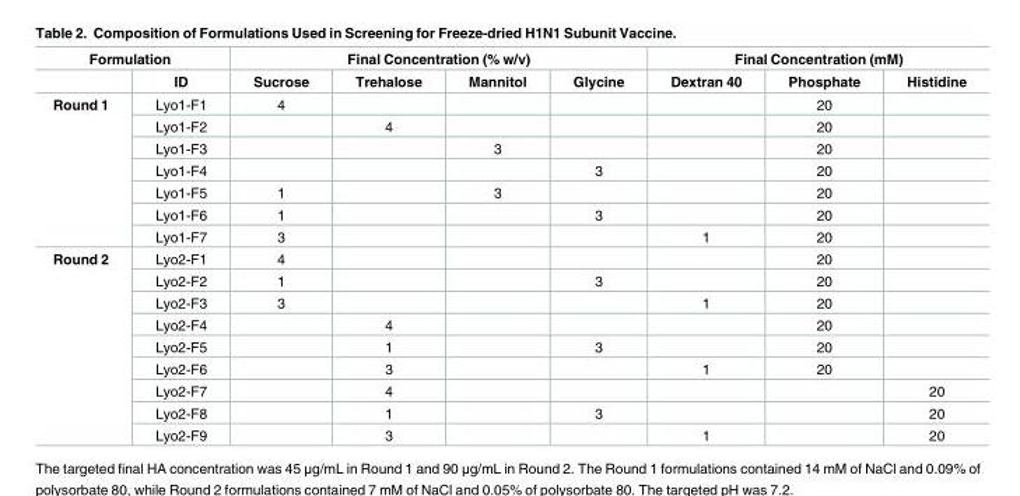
<table><thead><tr><td colspan="2">Formulation</td><td colspan="4">Final Concentration (% w/v)</td><td colspan="3">Final Concentration (mM)</td></tr><tr><td></td><td>ID</td><td>Sucrose</td><td>Trehalose</td><td>Mannitol</td><td>Glycine</td><td>Dextran 40</td><td>Phosphate</td><td>Histidine</td></tr></thead><tbody><tr><td rowspan="7">Round 1</td><td>Lyo1-F1</td><td>4</td><td></td><td></td><td></td><td></td><td>20</td><td></td></tr><tr><td>Lyo1-F2</td><td></td><td>4</td><td></td><td></td><td></td><td>20</td><td></td></tr><tr><td>Lyo1-F3</td><td></td><td></td><td>3</td><td></td><td></td><td>20</td><td></td></tr><tr><td>Lyo1-F4</td><td></td><td></td><td></td><td>3</td><td></td><td>20</td><td></td></tr><tr><td>Lyo1-F5</td><td>1</td><td></td><td>3</td><td></td><td></td><td>20</td><td></td></tr><tr><td>Lyo1-F6</td><td>1</td><td></td><td></td><td>3</td><td></td><td>20</td><td></td></tr><tr><td>Lyo1-F7</td><td>3</td><td></td><td></td><td></td><td>1</td><td>20</td><td></td></tr><tr><td rowspan="9">Round 2</td><td>Lyo2-F1</td><td>4</td><td></td><td></td><td></td><td></td><td>20</td><td></td></tr><tr><td>Lyo2-F2</td><td>1</td><td></td><td></td><td>3</td><td></td><td>20</td><td></td></tr><tr><td>Lyo2-F3</td><td>3</td><td></td><td></td><td></td><td>1</td><td>20</td><td></td></tr><tr><td>Lyo2-F4</td><td></td><td>4</td><td></td><td></td><td></td><td>20</td><td></td></tr><tr><td>Lyo2-F5</td><td></td><td>1</td><td></td><td>3</td><td></td><td>20</td><td></td></tr><tr><td>Lyo2-F6</td><td></td><td>3</td><td></td><td></td><td>1</td><td>20</td><td></td></tr><tr><td>Lyo2-F7</td><td></td><td>4</td><td></td><td></td><td></td><td></td><td>20</td></tr><tr><td>Lyo2-F8</td><td></td><td>1</td><td></td><td>3</td><td></td><td></td><td>20</td></tr><tr><td>Lyo2-F9</td><td></td><td>3</td><td></td><td></td><td>1</td><td></td><td>20</td></tr></tbody></table>